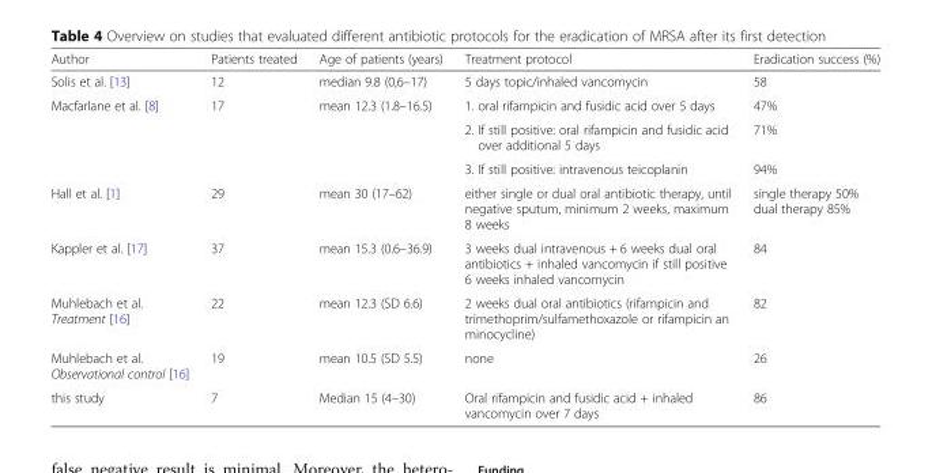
<table><thead><tr><td>Author</td><td>Patients treated</td><td>Age of patients (years)</td><td>Treatment protocol</td><td>Eradication success (%)</td></tr></thead><tbody><tr><td>Solis et al. [13]</td><td>12</td><td>median 9.8 (0,6–17)</td><td>5 days topic/inhaled vancomycin</td><td>58</td></tr><tr><td rowspan="3">Macfarlane et al. [8]</td><td rowspan="3">17</td><td rowspan="3">mean 12.3 (1.8–16.5)</td><td>1. oral rifampicin and fusidic acid over 5 days</td><td>47%</td></tr><tr><td>2. If still positive: oral rifampicin and fusidic acid over additional 5 days</td><td>71%</td></tr><tr><td>3. If still positive: intravenous teicoplanin</td><td>94%</td></tr><tr><td>Hall et al. [1]</td><td>29</td><td>mean 30 (17–62)</td><td>either single or dual oral antibiotic therapy, until negative sputum, minimum 2 weeks, maximum 8 weeks</td><td>single therapy 50% dual therapy 85%</td></tr><tr><td>Kappler et al. [17]</td><td>37</td><td>mean 15.3 (0.6–36.9)</td><td>3 weeks dual intravenous + 6 weeks dual oral antibiotics + inhaled vancomycin if still positive 6 weeks inhaled vancomycin</td><td>84</td></tr><tr><td>Muhlebach et al. Treatment [16]</td><td>22</td><td>mean 12.3 (SD 6.6)</td><td>2 weeks dual oral antibiotics (rifampicin and trimethoprim/sulfamethoxazole or rifampicin an minocycline)</td><td>82</td></tr><tr><td>Muhlebach et al. Observational control [16]</td><td>19</td><td>mean 10.5 (SD 5.5)</td><td>none</td><td>26</td></tr><tr><td>this study</td><td>7</td><td>Median 15 (4–30)</td><td>Oral rifampicin and fusidic acid + inhaled vancomycin over 7 days</td><td>86</td></tr></tbody></table>